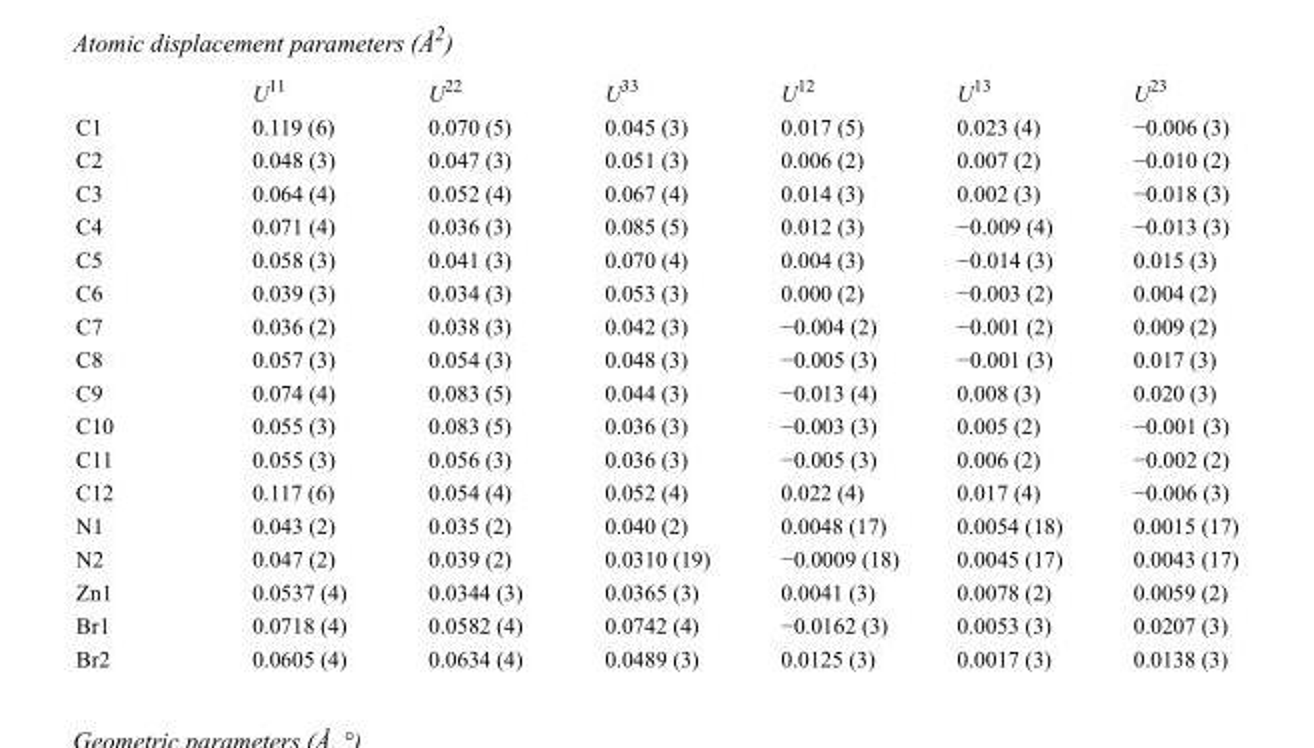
<table><thead><tr><td></td><td>U<sup>11</sup></td><td>U<sup>22</sup></td><td>U<sup>33</sup></td><td>U<sup>12</sup></td><td>U<sup>13</sup></td><td>U<sup>23</sup></td></tr></thead><tbody><tr><td>C1</td><td>0.119 (6)</td><td>0.070 (5)</td><td>0.045 (3)</td><td>0.017 (5)</td><td>0.023 (4)</td><td>−0.006 (3)</td></tr><tr><td>C2</td><td>0.048 (3)</td><td>0.047 (3)</td><td>0.051 (3)</td><td>0.006 (2)</td><td>0.007 (2)</td><td>−0.010 (2)</td></tr><tr><td>C3</td><td>0.064 (4)</td><td>0.052 (4)</td><td>0.067 (4)</td><td>0.014 (3)</td><td>0.002 (3)</td><td>−0.018 (3)</td></tr><tr><td>C4</td><td>0.071 (4)</td><td>0.036 (3)</td><td>0.085 (5)</td><td>0.012 (3)</td><td>−0.009 (4)</td><td>−0.013 (3)</td></tr><tr><td>C5</td><td>0.058 (3)</td><td>0.041 (3)</td><td>0.070 (4)</td><td>0.004 (3)</td><td>−0.014 (3)</td><td>0.015 (3)</td></tr><tr><td>C6</td><td>0.039 (3)</td><td>0.034 (3)</td><td>0.053 (3)</td><td>0.000 (2)</td><td>−0.003 (2)</td><td>0.004 (2)</td></tr><tr><td>C7</td><td>0.036 (2)</td><td>0.038 (3)</td><td>0.042 (3)</td><td>−0.004 (2)</td><td>−0.001 (2)</td><td>0.009 (2)</td></tr><tr><td>C8</td><td>0.057 (3)</td><td>0.054 (3)</td><td>0.048 (3)</td><td>−0.005 (3)</td><td>−0.001 (3)</td><td>0.017 (3)</td></tr><tr><td>C9</td><td>0.074 (4)</td><td>0.083 (5)</td><td>0.044 (3)</td><td>−0.013 (4)</td><td>0.008 (3)</td><td>0.020 (3)</td></tr><tr><td>C10</td><td>0.055 (3)</td><td>0.083 (5)</td><td>0.036 (3)</td><td>−0.003 (3)</td><td>0.005 (2)</td><td>−0.001 (3)</td></tr><tr><td>C11</td><td>0.055 (3)</td><td>0.056 (3)</td><td>0.036 (3)</td><td>−0.005 (3)</td><td>0.006 (2)</td><td>−0.002 (2)</td></tr><tr><td>C12</td><td>0.117 (6)</td><td>0.054 (4)</td><td>0.052 (4)</td><td>0.022 (4)</td><td>0.017 (4)</td><td>−0.006 (3)</td></tr><tr><td>N1</td><td>0.043 (2)</td><td>0.035 (2)</td><td>0.040 (2)</td><td>0.0048 (17)</td><td>0.0054 (18)</td><td>0.0015 (17)</td></tr><tr><td>N2</td><td>0.047 (2)</td><td>0.039 (2)</td><td>0.0310 (19)</td><td>−0.0009 (18)</td><td>0.0045 (17)</td><td>0.0043 (17)</td></tr><tr><td>Zn1</td><td>0.0537 (4)</td><td>0.0344 (3)</td><td>0.0365 (3)</td><td>0.0041 (3)</td><td>0.0078 (2)</td><td>0.0059 (2)</td></tr><tr><td>Br1</td><td>0.0718 (4)</td><td>0.0582 (4)</td><td>0.0742 (4)</td><td>−0.0162 (3)</td><td>0.0053 (3)</td><td>0.0207 (3)</td></tr><tr><td>Br2</td><td>0.0605 (4)</td><td>0.0634 (4)</td><td>0.0489 (3)</td><td>0.0125 (3)</td><td>0.0017 (3)</td><td>0.0138 (3)</td></tr></tbody></table>